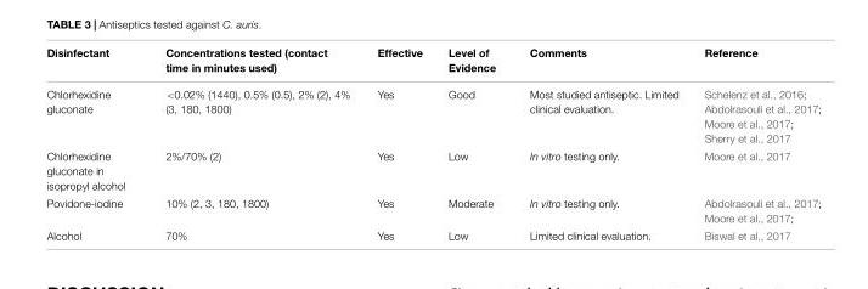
<table><thead><tr><td>Disinfectant</td><td>Concentrations tested (contact time in minutes used)</td><td>Effective</td><td>Level of Evidence</td><td>Comments</td><td>Reference</td></tr></thead><tbody><tr><td>Chlorhexidine gluconate</td><td>&lt;0.02% (1440), 0.5% (0.5), 2% (2), 4% (3, 180, 1800)</td><td>Yes</td><td>Good</td><td>Most studied antiseptic. Limited clinical evaluation.</td><td>Schelenz et al., 2016; Abdolrasouli et al., 2017; Moore et al., 2017; Sherry et al., 2017</td></tr><tr><td>Chlorhexidine gluconate in isopropyl alcohol</td><td>2%/70% (2)</td><td>Yes</td><td>Low</td><td>In vitro testing only.</td><td>Moore et al., 2017</td></tr><tr><td>Povidone-iodine</td><td>10% (2, 3, 180, 1800)</td><td>Yes</td><td>Moderate</td><td>In vitro testing only.</td><td>Abdolrasouli et al., 2017; Moore et al., 2017;</td></tr><tr><td>Alcohol</td><td>70%</td><td>Yes</td><td>Low</td><td>Limited clinical evaluation.</td><td>Biswal et al., 2017</td></tr></tbody></table>